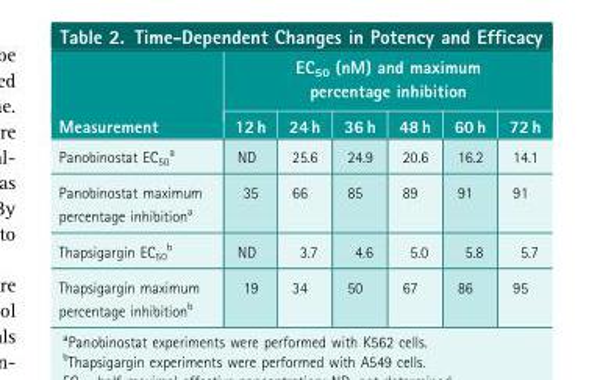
<table><thead><tr><td rowspan="2">Measurement</td><td colspan="6">EC<sub>50</sub> (nM) and maximum percentage inhibition</td></tr><tr><td>12 h</td><td>24 h</td><td>36 h</td><td>48 h</td><td>60 h</td><td>72 h</td></tr></thead><tbody><tr><td>Panobinostat EC<sub>50</sub> <sup>a</sup></td><td>ND</td><td>25.6</td><td>24.9</td><td>20.6</td><td>16.2</td><td>14.1</td></tr><tr><td>Panobinostat maximum percentage inhibition<sup>a</sup></td><td>35</td><td>66</td><td>85</td><td>89</td><td>91</td><td>91</td></tr><tr><td>Thapsigargin EC<sub>50</sub> <sup>b</sup></td><td>ND</td><td>3.7</td><td>4.6</td><td>5.0</td><td>5.8</td><td>5.7</td></tr><tr><td>Thapsigargin maximum percentage inhibition<sup>b</sup></td><td>19</td><td>34</td><td>50</td><td>67</td><td>86</td><td>95</td></tr></tbody></table>